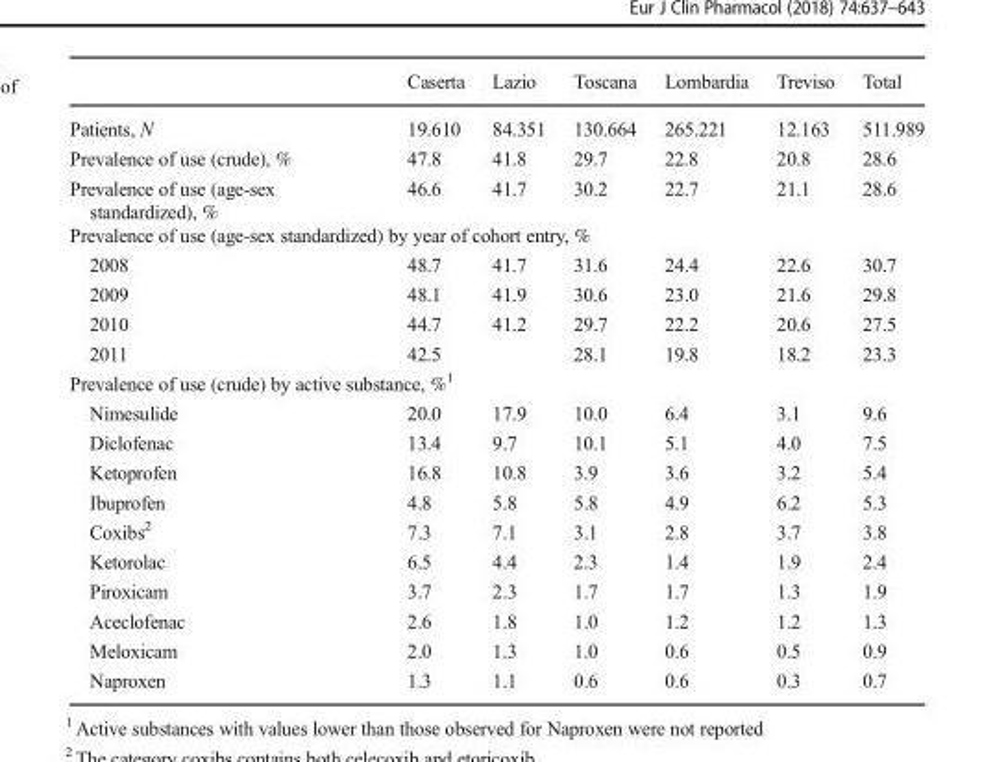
<table><thead><tr><td></td><td>Caserta</td><td>Lazio</td><td>Toscana</td><td>Lombardia</td><td>Treviso</td><td>Total</td></tr></thead><tbody><tr><td>Patients, N</td><td>19.610</td><td>84.351</td><td>130.664</td><td>265.221</td><td>12.163</td><td>511.989</td></tr><tr><td>Prevalence of use (crude), %</td><td>47.8</td><td>41.8</td><td>29.7</td><td>22.8</td><td>20.8</td><td>28.6</td></tr><tr><td>Prevalence of use (age-sex standardized), %</td><td>46.6</td><td>41.7</td><td>30.2</td><td>22.7</td><td>21.1</td><td>28.6</td></tr><tr><td colspan="7">Prevalence of use (age-sex standardized) by year of cohort entry, %</td></tr><tr><td>2008</td><td>48.7</td><td>41.7</td><td>31.6</td><td>24.4</td><td>22.6</td><td>30.7</td></tr><tr><td>2009</td><td>48.1</td><td>41.9</td><td>30.6</td><td>23.0</td><td>21.6</td><td>29.8</td></tr><tr><td>2010</td><td>44.7</td><td>41.2</td><td>29.7</td><td>22.2</td><td>20.6</td><td>27.5</td></tr><tr><td>2011</td><td>42.5</td><td></td><td>28.1</td><td>19.8</td><td>18.2</td><td>23.3</td></tr><tr><td colspan="7">Prevalence of use (crude) by active substance, %<sup>1</sup></td></tr><tr><td>Nimesulide</td><td>20.0</td><td>17.9</td><td>10.0</td><td>6.4</td><td>3.1</td><td>9.6</td></tr><tr><td>Diclofenac</td><td>13.4</td><td>9.7</td><td>10.1</td><td>5.1</td><td>4.0</td><td>7.5</td></tr><tr><td>Ketoprofen</td><td>16.8</td><td>10.8</td><td>3.9</td><td>3.6</td><td>3.2</td><td>5.4</td></tr><tr><td>Ibuprofen</td><td>4.8</td><td>5.8</td><td>5.8</td><td>4.9</td><td>6.2</td><td>5.3</td></tr><tr><td>Coxibs<sup>2</sup></td><td>7.3</td><td>7.1</td><td>3.1</td><td>2.8</td><td>3.7</td><td>3.8</td></tr><tr><td>Ketorolac</td><td>6.5</td><td>4.4</td><td>2.3</td><td>1.4</td><td>1.9</td><td>2.4</td></tr><tr><td>Piroxicam</td><td>3.7</td><td>2.3</td><td>1.7</td><td>1.7</td><td>1.3</td><td>1.9</td></tr><tr><td>Aceclofenac</td><td>2.6</td><td>1.8</td><td>1.0</td><td>1.2</td><td>1.2</td><td>1.3</td></tr><tr><td>Meloxicam</td><td>2.0</td><td>1.3</td><td>1.0</td><td>0.6</td><td>0.5</td><td>0.9</td></tr><tr><td>Naproxen</td><td>1.3</td><td>1.1</td><td>0.6</td><td>0.6</td><td>0.3</td><td>0.7</td></tr></tbody></table>